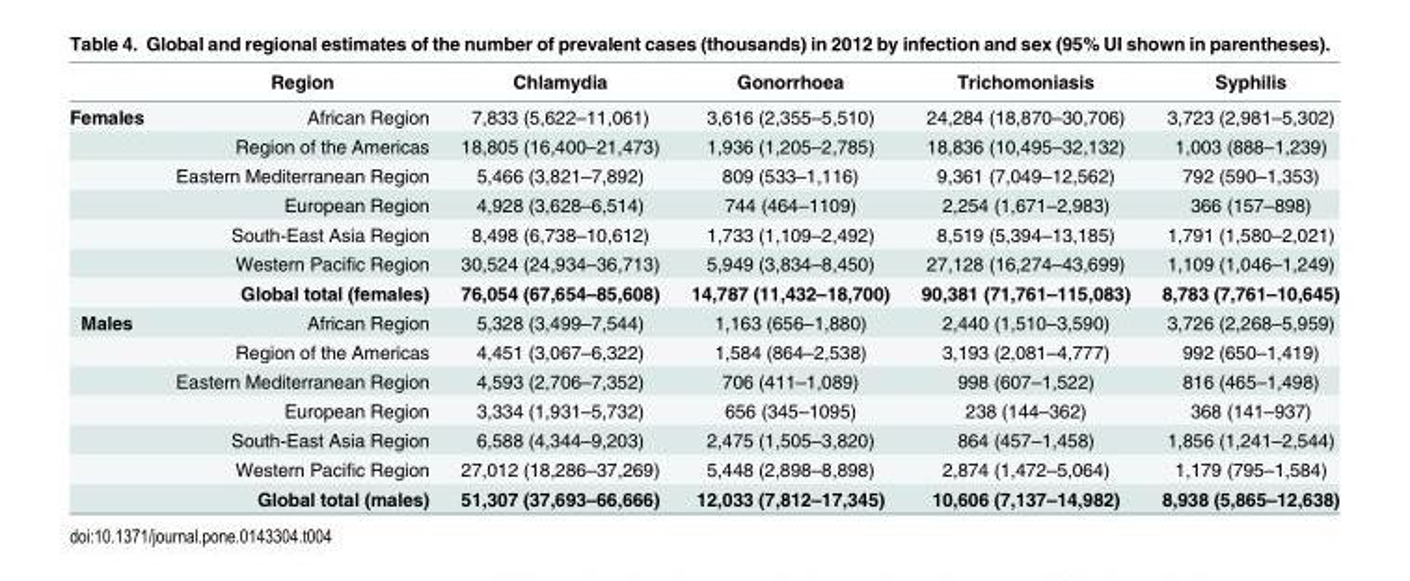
<table><thead><tr><td></td><td>Region</td><td>Chlamydia</td><td>Gonorrhoea</td><td>Trichomoniasis</td><td>Syphilis</td></tr></thead><tbody><tr><td rowspan="7">Females</td><td>African Region</td><td>7,833 (5,622–11,061)</td><td>3,616 (2,355–5,510)</td><td>24,284 (18,870–30,706)</td><td>3,723 (2,981–5,302)</td></tr><tr><td>Region of the Americas</td><td>18,805 (16,400–21,473)</td><td>1,936 (1,205–2,785)</td><td>18,836 (10,495–32,132)</td><td>1,003 (888–1,239)</td></tr><tr><td>Eastern Mediterranean Region</td><td>5,466 (3,821–7,892)</td><td>809 (533–1,116)</td><td>9,361 (7,049–12,562)</td><td>792 (590–1,353)</td></tr><tr><td>European Region</td><td>4,928 (3,628–6,514)</td><td>744 (464–1109)</td><td>2,254 (1,671–2,983)</td><td>366 (157–898)</td></tr><tr><td>South-East Asia Region</td><td>8,498 (6,738–10,612)</td><td>1,733 (1,109–2,492)</td><td>8,519 (5,394–13,185)</td><td>1,791 (1,580–2,021)</td></tr><tr><td>Western Pacific Region</td><td>30,524 (24,934–36,713)</td><td>5,949 (3,834–8,450)</td><td>27,128 (16,274–43,699)</td><td>1,109 (1,046–1,249)</td></tr><tr><td>Global total (females)</td><td>76,054 (67,654–85,608)</td><td>14,787 (11,432–18,700)</td><td>90,381 (71,761–115,083)</td><td>8,783 (7,761–10,645)</td></tr><tr><td rowspan="7">Males</td><td>African Region</td><td>5,328 (3,499–7,544)</td><td>1,163 (656–1,880)</td><td>2,440 (1,510–3,590)</td><td>3,726 (2,268–5,959)</td></tr><tr><td>Region of the Americas</td><td>4,451 (3,067–6,322)</td><td>1,584 (864–2,538)</td><td>3,193 (2,081–4,777)</td><td>992 (650–1,419)</td></tr><tr><td>Eastern Mediterranean Region</td><td>4,593 (2,706–7,352)</td><td>706 (411–1,089)</td><td>998 (607–1,522)</td><td>816 (465–1,498)</td></tr><tr><td>European Region</td><td>3,334 (1,931–5,732)</td><td>656 (345–1095)</td><td>238 (144–362)</td><td>368 (141–937)</td></tr><tr><td>South-East Asia Region</td><td>6,588 (4,344–9,203)</td><td>2,475 (1,505–3,820)</td><td>864 (457–1,458)</td><td>1,856 (1,241–2,544)</td></tr><tr><td>Western Pacific Region</td><td>27,012 (18,286–37,269)</td><td>5,448 (2,898–8,898)</td><td>2,874 (1,472–5,064)</td><td>1,179 (795–1,584)</td></tr><tr><td>Global total (males)</td><td>51,307 (37,693–66,666)</td><td>12,033 (7,812–17,345)</td><td>10,606 (7,137–14,982)</td><td>8,938 (5,865–12,638)</td></tr></tbody></table>